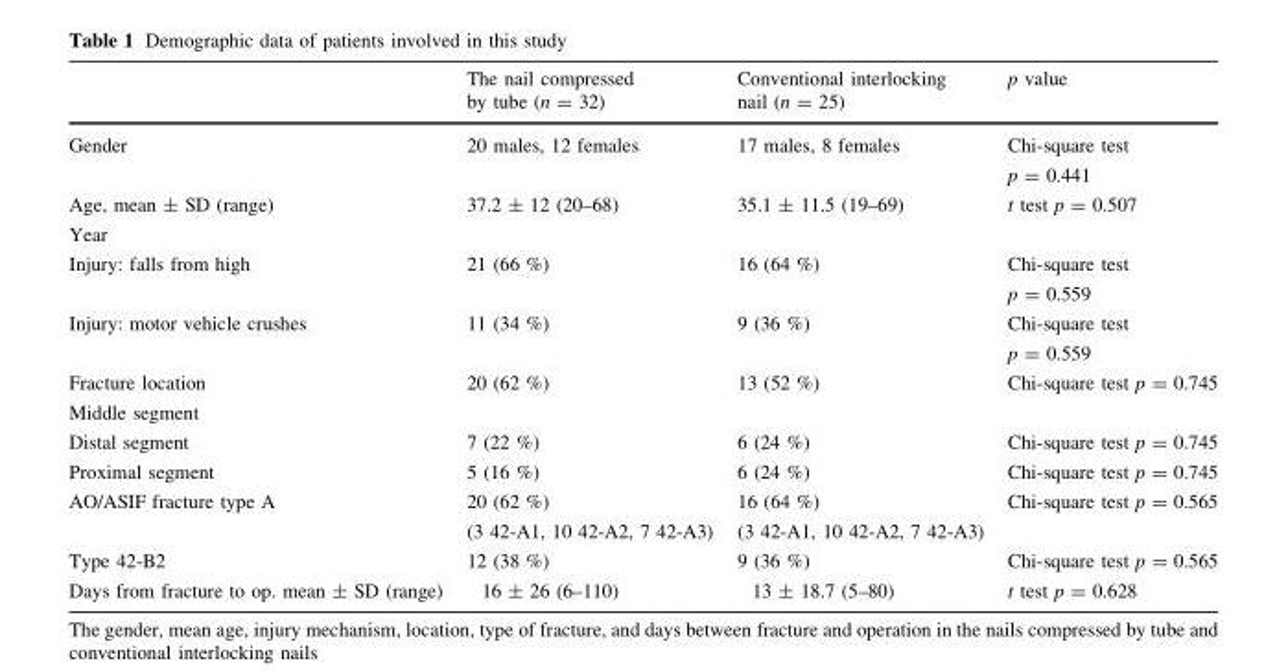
<table><thead><tr><td></td><td>The nail compressed by tube (n = 32)</td><td>Conventional interlocking nail (n = 25)</td><td>p value</td></tr></thead><tbody><tr><td>Gender</td><td>20 males, 12 females</td><td>17 males, 8 females</td><td>Chi-square test p = 0.441</td></tr><tr><td>Age, mean ± SD (range) Year</td><td>37.2 ± 12 (20–68)</td><td>35.1 ± 11.5 (19–69)</td><td>t test p = 0.507</td></tr><tr><td>Injury: falls from high</td><td>21 (66 %)</td><td>16 (64 %)</td><td>Chi-square test p = 0.559</td></tr><tr><td>Injury: motor vehicle crushes</td><td>11 (34 %)</td><td>9 (36 %)</td><td>Chi-square test p = 0.559</td></tr><tr><td>Fracture location Middle segment</td><td>20 (62 %)</td><td>13 (52 %)</td><td>Chi-square test p = 0.745</td></tr><tr><td>Distal segment</td><td>7 (22 %)</td><td>6 (24 %)</td><td>Chi-square test p = 0.745</td></tr><tr><td>Proximal segment</td><td>5 (16 %)</td><td>6 (24 %)</td><td>Chi-square test p = 0.745</td></tr><tr><td>AO/ASIF fracture type A</td><td>20 (62 %) (3 42-A1, 10 42-A2, 7 42-A3)</td><td>16 (64 %) (3 42-A1, 10 42-A2, 7 42-A3)</td><td>Chi-square test p = 0.565</td></tr><tr><td>Type 42-B2</td><td>12 (38 %)</td><td>9 (36 %)</td><td>Chi-square test p = 0.565</td></tr><tr><td>Days from fracture to op. mean ± SD (range)</td><td>16 ± 26 (6–110)</td><td>13 ± 18.7 (5–80)</td><td>t test p = 0.628</td></tr></tbody></table>